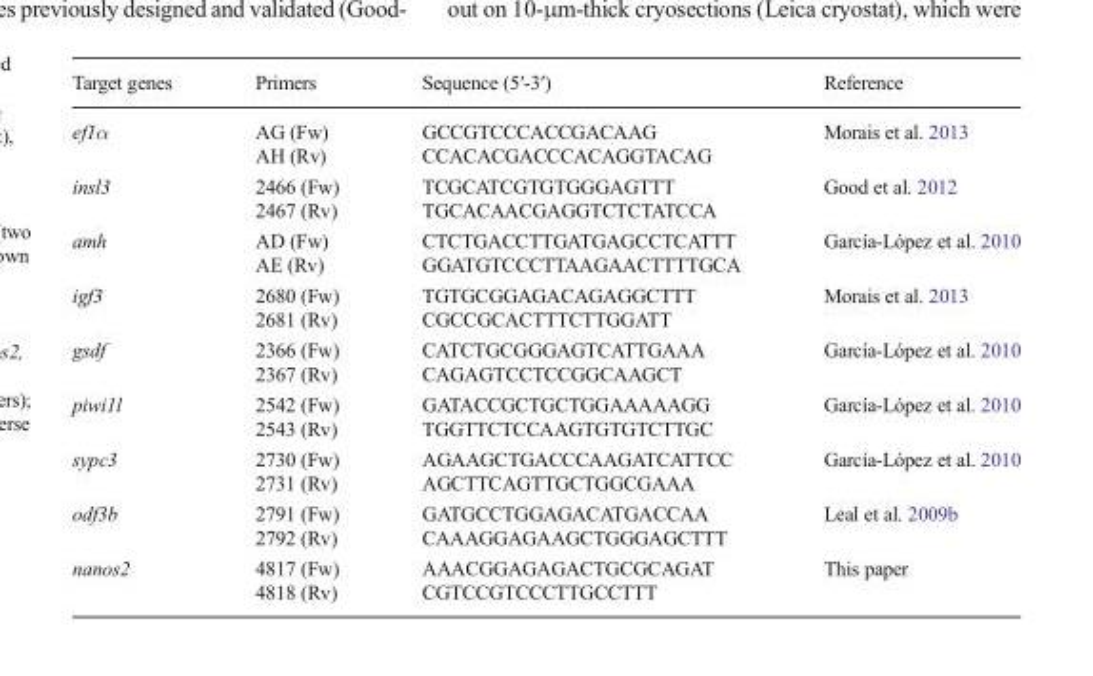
<table><thead><tr><td>Target genes</td><td>Primers</td><td>Sequence (5′-3′)</td><td>Reference</td></tr></thead><tbody><tr><td rowspan="2">ef1α</td><td>AG (Fw)</td><td>GCCGTCCCACCGACAAG</td><td rowspan="2">Morais et al. 2013</td></tr><tr><td>AH (Rv)</td><td>CCACACGACCCACAGGTACAG</td></tr><tr><td rowspan="2">insl3</td><td>2466 (Fw)</td><td>TCGCATCGTGTGGGAGTTT</td><td rowspan="2">Good et al. 2012</td></tr><tr><td>2467 (Rv)</td><td>TGCACAACGAGGTCTCTATCCA</td></tr><tr><td rowspan="2">amh</td><td>AD (Fw)</td><td>CTCTGACCTTGATGAGCCTCATTT</td><td rowspan="2">García-López et al. 2010</td></tr><tr><td>AE (Rv)</td><td>GGATGTCCCTTAAGAACTTTTGCA</td></tr><tr><td rowspan="2">igf3</td><td>2680 (Fw)</td><td>TGTGCGGAGACAGAGGCTTT</td><td rowspan="2">Morais et al. 2013</td></tr><tr><td>2681 (Rv)</td><td>CGCCGCACTTTCTTGGATT</td></tr><tr><td rowspan="2">gsdf</td><td>2366 (Fw)</td><td>CATCTGCGGGAGTCATTGAAA</td><td rowspan="2">García-López et al. 2010</td></tr><tr><td>2367 (Rv)</td><td>CAGAGTCCTCCGGCAAGCT</td></tr><tr><td rowspan="2">piwi1l</td><td>2542 (Fw)</td><td>GATACCGCTGCTGGAAAAAGG</td><td rowspan="2">García-López et al. 2010</td></tr><tr><td>2543 (Rv)</td><td>TGGTTCTCCAAGTGTGTCTTGC</td></tr><tr><td rowspan="2">sypc3</td><td>2730 (Fw)</td><td>AGAAGCTGACCCAAGATCATTCC</td><td rowspan="2">García-López et al. 2010</td></tr><tr><td>2731 (Rv)</td><td>AGCTTCAGTTGCTGGCGAAA</td></tr><tr><td rowspan="2">odf3b</td><td>2791 (Fw)</td><td>GATGCCTGGAGACATGACCAA</td><td rowspan="2">Leal et al. 2009b</td></tr><tr><td>2792 (Rv)</td><td>CAAAGGAGAAGCTGGGAGCTTT</td></tr><tr><td rowspan="2">nanos2</td><td>4817 (Fw)</td><td>AAACGGAGAGACTGCGCAGAT</td><td rowspan="2">This paper</td></tr><tr><td>4818 (Rv)</td><td>CGTCCGTCCCTTGCCTTT</td></tr></tbody></table>